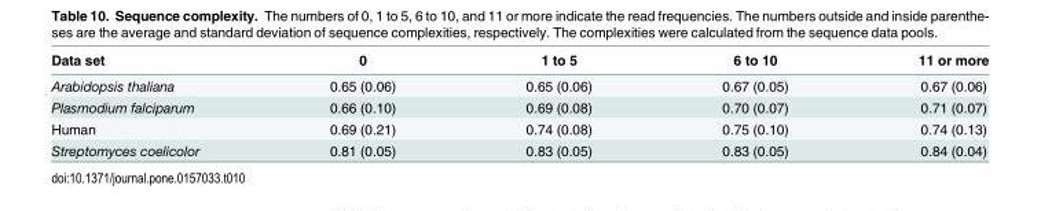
<table><thead><tr><td>Data set</td><td>0</td><td>1 to 5</td><td>6 to 10</td><td>11 or more</td></tr></thead><tbody><tr><td>Arabidopsis thaliana</td><td>0.65 (0.06)</td><td>0.65 (0.06)</td><td>0.67 (0.05)</td><td>0.67 (0.06)</td></tr><tr><td>Plasmodium falciparum</td><td>0.66 (0.10)</td><td>0.69 (0.08)</td><td>0.70 (0.07)</td><td>0.71 (0.07)</td></tr><tr><td>Human</td><td>0.69 (0.21)</td><td>0.74 (0.08)</td><td>0.75 (0.10)</td><td>0.74 (0.13)</td></tr><tr><td>Streptomyces coelicolor</td><td>0.81 (0.05)</td><td>0.83 (0.05)</td><td>0.83 (0.05)</td><td>0.84 (0.04)</td></tr></tbody></table>